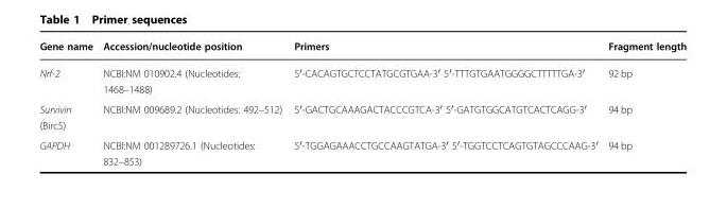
<table><thead><tr><td>Gene name</td><td>Accession/nucleotide position</td><td>Primers</td><td>Fragment length</td></tr></thead><tbody><tr><td>Nrf-2</td><td>NCBI:NM 010902.4 (Nucleotides: 1468–1488)</td><td>5′-CACAGTGCTCCTATGCGTGAA-3′ 5′-TTTGTGAATGGGGCTTTTTGA-3′</td><td>92 bp</td></tr><tr><td>Survivin (Birc5)</td><td>NCBI:NM 009689.2 (Nucleotides: 492–512)</td><td>5′-GACTGCAAAGACTACCCGTCA-3′ 5′-GATGTGGCATGTCACTCAGG-3′</td><td>94 bp</td></tr><tr><td>GAPDH</td><td>NCBI:NM 001289726.1 (Nucleotides: 832–853)</td><td>5′-TGGAGAAACCTGCCAAGTATGA-3′ 5′-TGGTCCTCAGTGTAGCCCAAG-3′</td><td>94 bp</td></tr></tbody></table>